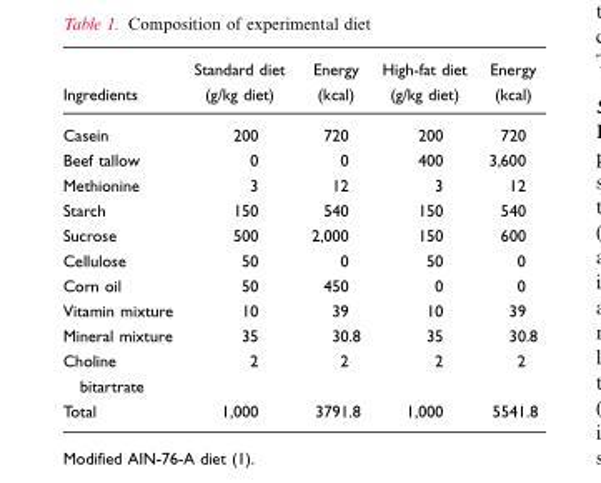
<table><thead><tr><td>Ingredients</td><td>Standard diet (g/kg diet)</td><td>Energy (kcal)</td><td>High-fat diet (g/kg diet)</td><td>Energy (kcal)</td></tr></thead><tbody><tr><td>Casein</td><td>200</td><td>720</td><td>200</td><td>720</td></tr><tr><td>Beef tallow</td><td>0</td><td>0</td><td>400</td><td>3,600</td></tr><tr><td>Methionine</td><td>3</td><td>12</td><td>3</td><td>12</td></tr><tr><td>Starch</td><td>150</td><td>540</td><td>150</td><td>540</td></tr><tr><td>Sucrose</td><td>500</td><td>2,000</td><td>150</td><td>600</td></tr><tr><td>Cellulose</td><td>50</td><td>0</td><td>50</td><td>0</td></tr><tr><td>Corn oil</td><td>50</td><td>450</td><td>0</td><td>0</td></tr><tr><td>Vitamin mixture</td><td>10</td><td>39</td><td>10</td><td>39</td></tr><tr><td>Mineral mixture</td><td>35</td><td>30.8</td><td>35</td><td>30.8</td></tr><tr><td>Choline bitartrate</td><td>2</td><td>2</td><td>2</td><td>2</td></tr><tr><td>Total</td><td>1,000</td><td>3791.8</td><td>1,000</td><td>5541.8</td></tr></tbody></table>